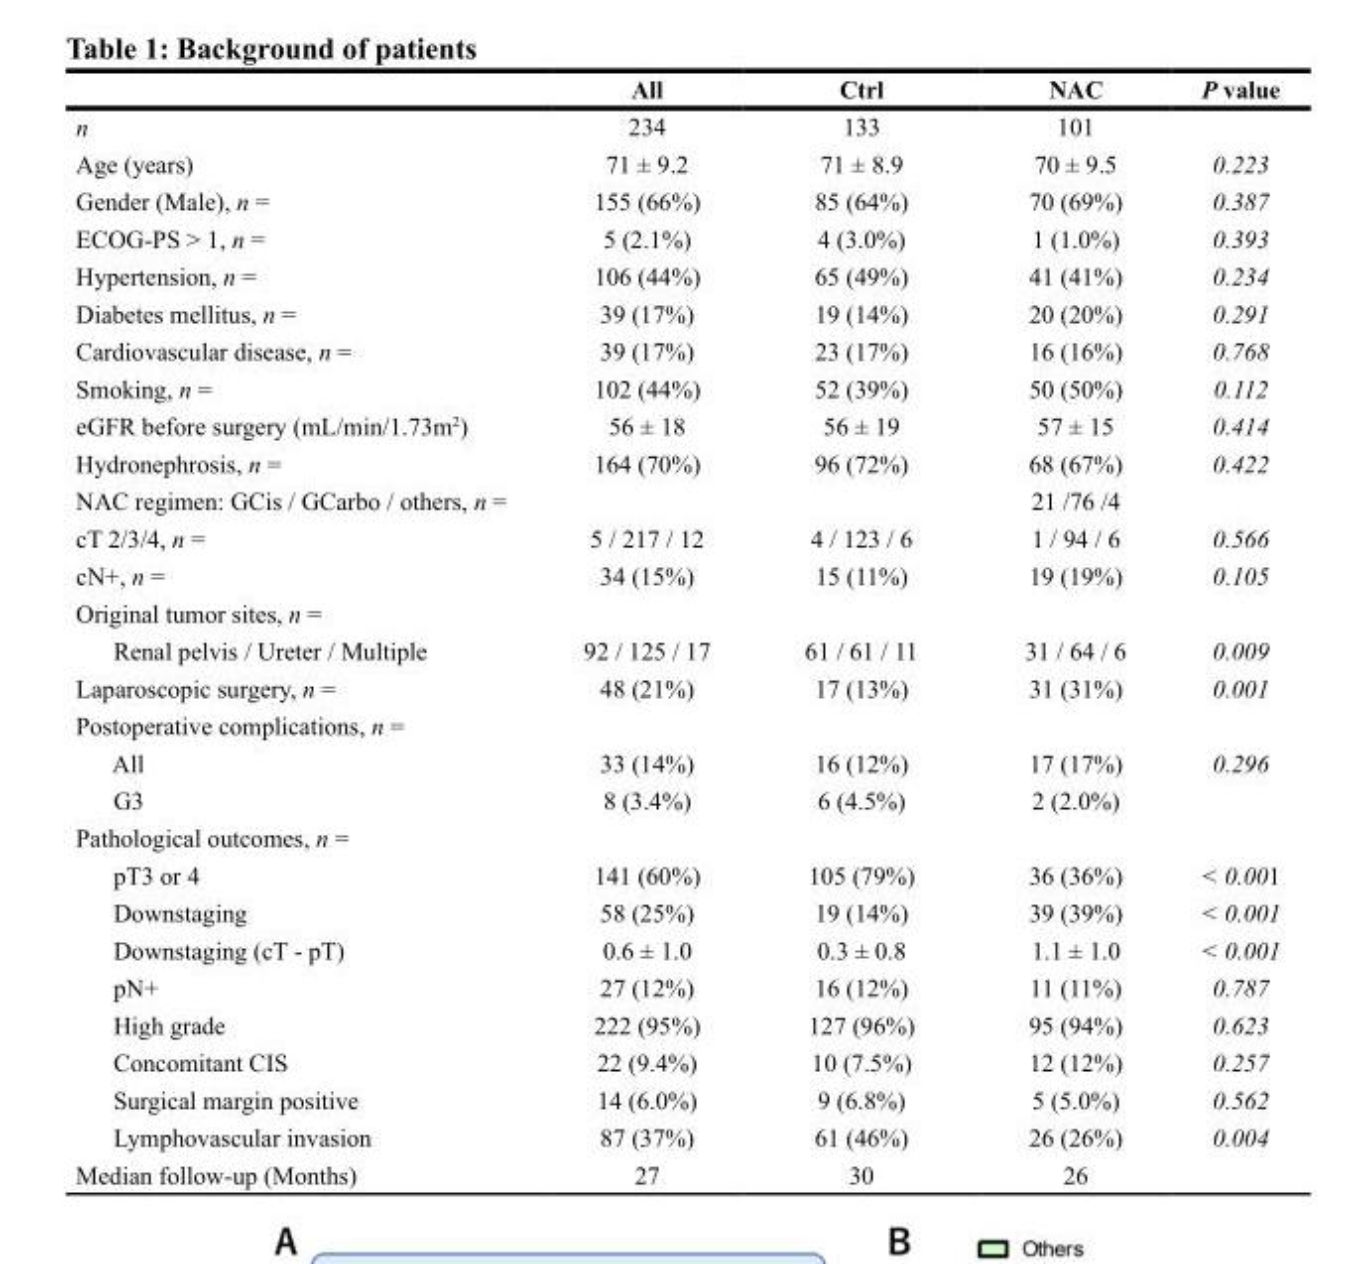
<table><thead><tr><td></td><td>All</td><td>Ctrl</td><td>NAC</td><td>P value</td></tr></thead><tbody><tr><td>n</td><td>234</td><td>133</td><td>101</td><td></td></tr><tr><td>Age (years)</td><td>71 ± 9.2</td><td>71 ± 8.9</td><td>70 ± 9.5</td><td>0.223</td></tr><tr><td>Gender (Male), n =</td><td>155 (66%)</td><td>85 (64%)</td><td>70 (69%)</td><td>0.387</td></tr><tr><td>ECOG-PS &gt; 1, n =</td><td>5 (2.1%)</td><td>4 (3.0%)</td><td>1 (1.0%)</td><td>0.393</td></tr><tr><td>Hypertension, n =</td><td>106 (44%)</td><td>65 (49%)</td><td>41 (41%)</td><td>0.234</td></tr><tr><td>Diabetes mellitus, n =</td><td>39 (17%)</td><td>19 (14%)</td><td>20 (20%)</td><td>0.291</td></tr><tr><td>Cardiovascular disease, n =</td><td>39 (17%)</td><td>23 (17%)</td><td>16 (16%)</td><td>0.768</td></tr><tr><td>Smoking, n =</td><td>102 (44%)</td><td>52 (39%)</td><td>50 (50%)</td><td>0.112</td></tr><tr><td>eGFR before surgery (mL/min/1.73m<sup>2</sup>)</td><td>56 ± 18</td><td>56 ± 19</td><td>57 ± 15</td><td>0.414</td></tr><tr><td>Hydronephrosis, n =</td><td>164 (70%)</td><td>96 (72%)</td><td>68 (67%)</td><td>0.422</td></tr><tr><td>NAC regimen: GCis / GCarbo / others, n =</td><td></td><td></td><td>21 /76 /4</td><td></td></tr><tr><td>cT 2/3/4, n =</td><td>5 / 217 / 12</td><td>4 / 123 / 6</td><td>1 / 94 / 6</td><td>0.566</td></tr><tr><td>cN+, n =</td><td>34 (15%)</td><td>15 (11%)</td><td>19 (19%)</td><td>0.105</td></tr><tr><td colspan="5">Original tumor sites, n =</td></tr><tr><td>Renal pelvis / Ureter / Multiple</td><td>92 / 125 / 17</td><td>61 / 61 / 11</td><td>31 / 64 / 6</td><td>0.009</td></tr><tr><td>Laparoscopic surgery, n =</td><td>48 (21%)</td><td>17 (13%)</td><td>31 (31%)</td><td>0.001</td></tr><tr><td colspan="5">Postoperative complications, n =</td></tr><tr><td>All</td><td>33 (14%)</td><td>16 (12%)</td><td>17 (17%)</td><td>0.296</td></tr><tr><td>G3</td><td>8 (3.4%)</td><td>6 (4.5%)</td><td>2 (2.0%)</td><td></td></tr><tr><td colspan="5">Pathological outcomes, n =</td></tr><tr><td>pT3 or 4</td><td>141 (60%)</td><td>105 (79%)</td><td>36 (36%)</td><td>&lt; 0.001</td></tr><tr><td>Downstaging</td><td>58 (25%)</td><td>19 (14%)</td><td>39 (39%)</td><td>&lt; 0.001</td></tr><tr><td>Downstaging (cT - pT)</td><td>0.6 ± 1.0</td><td>0.3 ± 0.8</td><td>1.1 ± 1.0</td><td>&lt; 0.001</td></tr><tr><td>pN+</td><td>27 (12%)</td><td>16 (12%)</td><td>11 (11%)</td><td>0.787</td></tr><tr><td>High grade</td><td>222 (95%)</td><td>127 (96%)</td><td>95 (94%)</td><td>0.623</td></tr><tr><td>Concomitant CIS</td><td>22 (9.4%)</td><td>10 (7.5%)</td><td>12 (12%)</td><td>0.257</td></tr><tr><td>Surgical margin positive</td><td>14 (6.0%)</td><td>9 (6.8%)</td><td>5 (5.0%)</td><td>0.562</td></tr><tr><td>Lymphovascular invasion</td><td>87 (37%)</td><td>61 (46%)</td><td>26 (26%)</td><td>0.004</td></tr><tr><td>Median follow-up (Months)</td><td>27</td><td>30</td><td>26</td><td></td></tr></tbody></table>